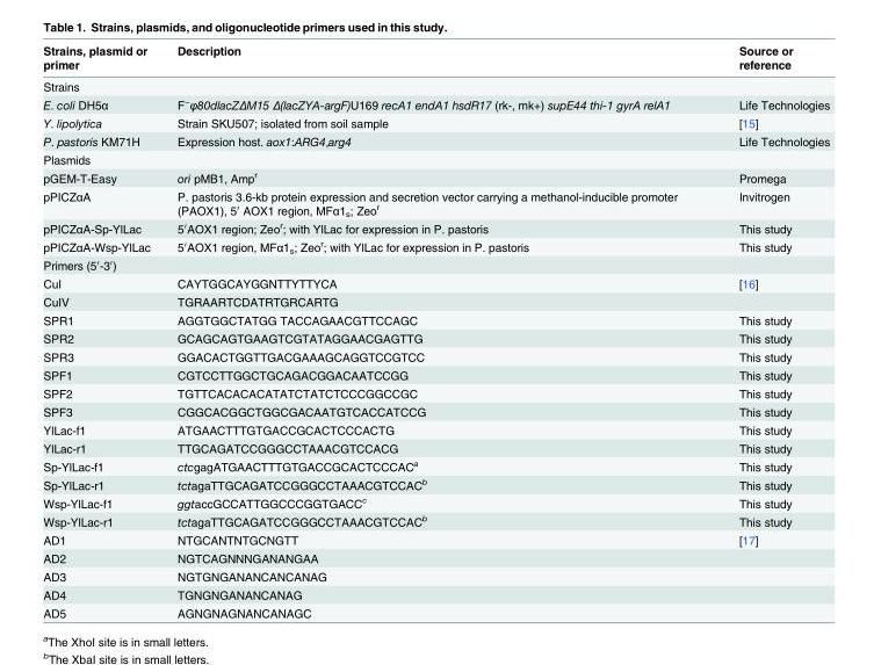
<table><thead><tr><td>Strains, plasmid or primer</td><td>Description</td><td>Source or reference</td></tr></thead><tbody><tr><td colspan="3">Strains</td></tr><tr><td>E. coli DH5α</td><td>F−φ80dlacZΔM15 Δ(lacZYA-argF)U169 recA1 endA1 hsdR17 (rk-, mk+) supE44 thi-1 gyrA relA1</td><td>Life Technologies</td></tr><tr><td>Y. lipolytica</td><td>Strain SKU507; isolated from soil sample</td><td>[15]</td></tr><tr><td>P. pastoris KM71H</td><td>Expression host. aox1:ARG4,arg4</td><td>Life Technologies</td></tr><tr><td colspan="3">Plasmids</td></tr><tr><td>pGEM-T-Easy</td><td>ori pMB1, Amp<sup>r</sup></td><td>Promega</td></tr><tr><td>pPICZαA</td><td>P. pastoris 3.6-kb protein expression and secretion vector carrying a methanol-inducible promoter (PAOX1), 5′ AOX1 region, MFα1<sub>s</sub>; Zeo<sup>r</sup></td><td>Invitrogen</td></tr><tr><td>pPICZαA-Sp-YlLac</td><td>5′AOX1 region; Zeo<sup>r</sup>; with YlLac for expression in P. pastoris</td><td>This study</td></tr><tr><td>pPICZαA-Wsp-YlLac</td><td>5′AOX1 region, MFα1<sub>s</sub>; Zeo<sup>r</sup>; with YlLac for expression in P. pastoris</td><td>This study</td></tr><tr><td colspan="3">Primers (5′-3′)</td></tr><tr><td>CuI</td><td>CAYTGGCAYGGNTTYTTYCA</td><td>[16]</td></tr><tr><td>CuIV</td><td>TGRAARTCDATRTGRCARTG</td><td></td></tr><tr><td>SPR1</td><td>AGGTGGCTATGG TACCAGAACGTTCCAGC</td><td>This study</td></tr><tr><td>SPR2</td><td>GCAGCAGTGAAGTCGTATAGGAACGAGTTG</td><td>This study</td></tr><tr><td>SPR3</td><td>GGACACTGGTTGACGAAAGCAGGTCCGTCC</td><td>This study</td></tr><tr><td>SPF1</td><td>CGTCCTTGGCTGCAGACGGACAATCCGG</td><td>This study</td></tr><tr><td>SPF2</td><td>TGTTCACACACATATCTATCTCCCGGCCGC</td><td>This study</td></tr><tr><td>SPF3</td><td>CGGCACGGCTGGCGACAATGTCACCATCCG</td><td>This study</td></tr><tr><td>YlLac-f1</td><td>ATGAACTTTGTGACCGCACTCCCACTG</td><td>This study</td></tr><tr><td>YlLac-r1</td><td>TTGCAGATCCGGGCCTAAACGTCCACG</td><td>This study</td></tr><tr><td>Sp-YlLac-f1</td><td>ctcgagATGAACTTTGTGACCGCACTCCCAC<sup>a</sup></td><td>This study</td></tr><tr><td>Sp-YlLac-r1</td><td>tctagaTTGCAGATCCGGGCCTAAACGTCCAC<sup>b</sup></td><td>This study</td></tr><tr><td>Wsp-YlLac-f1</td><td>ggtaccGCCATTGGCCCGGTGACC<sup>c</sup></td><td>This study</td></tr><tr><td>Wsp-YlLac-r1</td><td>tctagaTTGCAGATCCGGGCCTAAACGTCCAC<sup>b</sup></td><td>This study</td></tr><tr><td>AD1</td><td>NTGCANTNTGCNGTT</td><td>[17]</td></tr><tr><td>AD2</td><td>NGTCAGNNNGANANGAA</td><td></td></tr><tr><td>AD3</td><td>NGTGNGANANCANCANAG</td><td></td></tr><tr><td>AD4</td><td>TGNGNGANANCANAG</td><td></td></tr><tr><td>AD5</td><td>AGNGNAGNANCANAGC</td><td></td></tr></tbody></table>